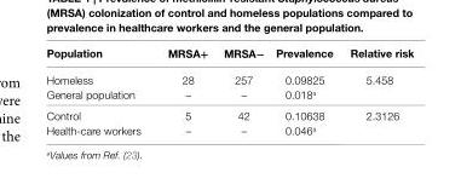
<table><thead><tr><td>Population</td><td>Mrsa+</td><td>Mrsa−</td><td>Prevalence</td><td>relative risk</td></tr></thead><tbody><tr><td>Homeless</td><td>28</td><td>257</td><td>0.09825</td><td rowspan="2">5.458</td></tr><tr><td>General population</td><td>–</td><td>–</td><td>0.018<sup>a</sup></td></tr><tr><td>Control</td><td>5</td><td>42</td><td>0.10638</td><td rowspan="2">2.3126</td></tr><tr><td>Health-care workers</td><td>–</td><td>–</td><td>0.046<sup>a</sup></td></tr></tbody></table>